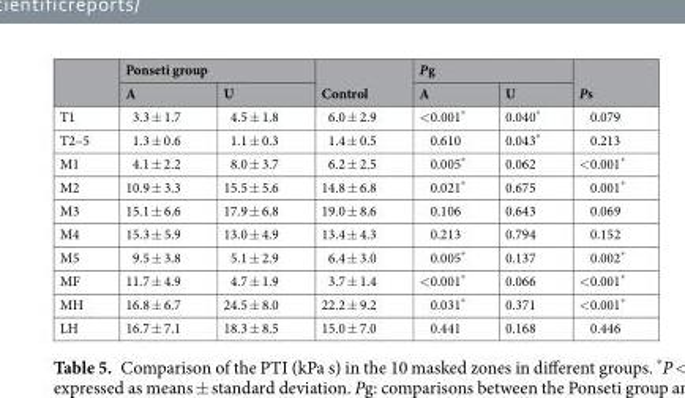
<table><thead><tr><td rowspan="2"></td><td colspan="2">Ponseti group</td><td rowspan="2">Control</td><td colspan="2">Pg</td><td rowspan="2">Ps</td></tr><tr><td>A</td><td>U</td><td>A</td><td>U</td></tr></thead><tbody><tr><td>T1</td><td>3.3 ± 1.7</td><td>4.5 ± 1.8</td><td>6.0 ± 2.9</td><td>&lt;0.001*</td><td>0.040*</td><td>0.079</td></tr><tr><td>T2–5</td><td>1.3 ± 0.6</td><td>1.1 ± 0.3</td><td>1.4 ± 0.5</td><td>0.610</td><td>0.043*</td><td>0.213</td></tr><tr><td>M1</td><td>4.1 ± 2.2</td><td>8.0 ± 3.7</td><td>6.2 ± 2.5</td><td>0.005*</td><td>0.062</td><td>&lt;0.001*</td></tr><tr><td>M2</td><td>10.9 ± 3.3</td><td>15.5 ± 5.6</td><td>14.8 ± 6.8</td><td>0.021*</td><td>0.675</td><td>0.001*</td></tr><tr><td>M3</td><td>15.1 ± 6.6</td><td>17.9 ± 6.8</td><td>19.0 ± 8.6</td><td>0.106</td><td>0.643</td><td>0.069</td></tr><tr><td>M4</td><td>15.3 ± 5.9</td><td>13.0 ± 4.9</td><td>13.4 ± 4.3</td><td>0.213</td><td>0.794</td><td>0.152</td></tr><tr><td>M5</td><td>9.5 ± 3.8</td><td>5.1 ± 2.9</td><td>6.4 ± 3.0</td><td>0.005*</td><td>0.137</td><td>0.002*</td></tr><tr><td>MF</td><td>11.7 ± 4.9</td><td>4.7 ± 1.9</td><td>3.7 ± 1.4</td><td>&lt;0.001*</td><td>0.066</td><td>&lt;0.001*</td></tr><tr><td>MH</td><td>16.8 ± 6.7</td><td>24.5 ± 8.0</td><td>22.2 ± 9.2</td><td>0.031*</td><td>0.371</td><td>&lt;0.001*</td></tr><tr><td>LH</td><td>16.7 ± 7.1</td><td>18.3 ± 8.5</td><td>15.0 ± 7.0</td><td>0.441</td><td>0.168</td><td>0.446</td></tr></tbody></table>